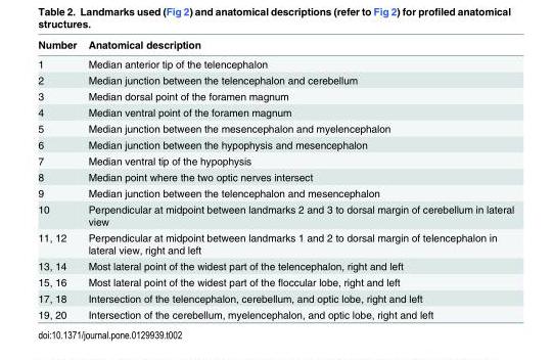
<table><thead><tr><td>Number</td><td>Anatomical description</td></tr></thead><tbody><tr><td>1</td><td>Median anterior tip of the telencephalon</td></tr><tr><td>2</td><td>Median junction between the telencephalon and cerebellum</td></tr><tr><td>3</td><td>Median dorsal point of the foramen magnum</td></tr><tr><td>4</td><td>Median ventral point of the foramen magnum</td></tr><tr><td>5</td><td>Median junction between the mesencephalon and myelencephalon</td></tr><tr><td>6</td><td>Median junction between the hypophysis and mesencephalon</td></tr><tr><td>7</td><td>Median ventral tip of the hypophysis</td></tr><tr><td>8</td><td>Median point where the two optic nerves intersect</td></tr><tr><td>9</td><td>Median junction between the telencephalon and mesencephalon</td></tr><tr><td>10</td><td>Perpendicular at midpoint between landmarks 2 and 3 to dorsal margin of cerebellum in lateral view</td></tr><tr><td>11, 12</td><td>Perpendicular at midpoint between landmarks 1 and 2 to dorsal margin of telencephalon in lateral view, right and left</td></tr><tr><td>13, 14</td><td>Most lateral point of the widest part of the telencephalon, right and left</td></tr><tr><td>15, 16</td><td>Most lateral point of the widest part of the floccular lobe, right and left</td></tr><tr><td>17, 18</td><td>Intersection of the telencephalon, cerebellum, and optic lobe, right and left</td></tr><tr><td>19, 20</td><td>Intersection of the cerebellum, myelencephalon, and optic lobe, right and left</td></tr></tbody></table>